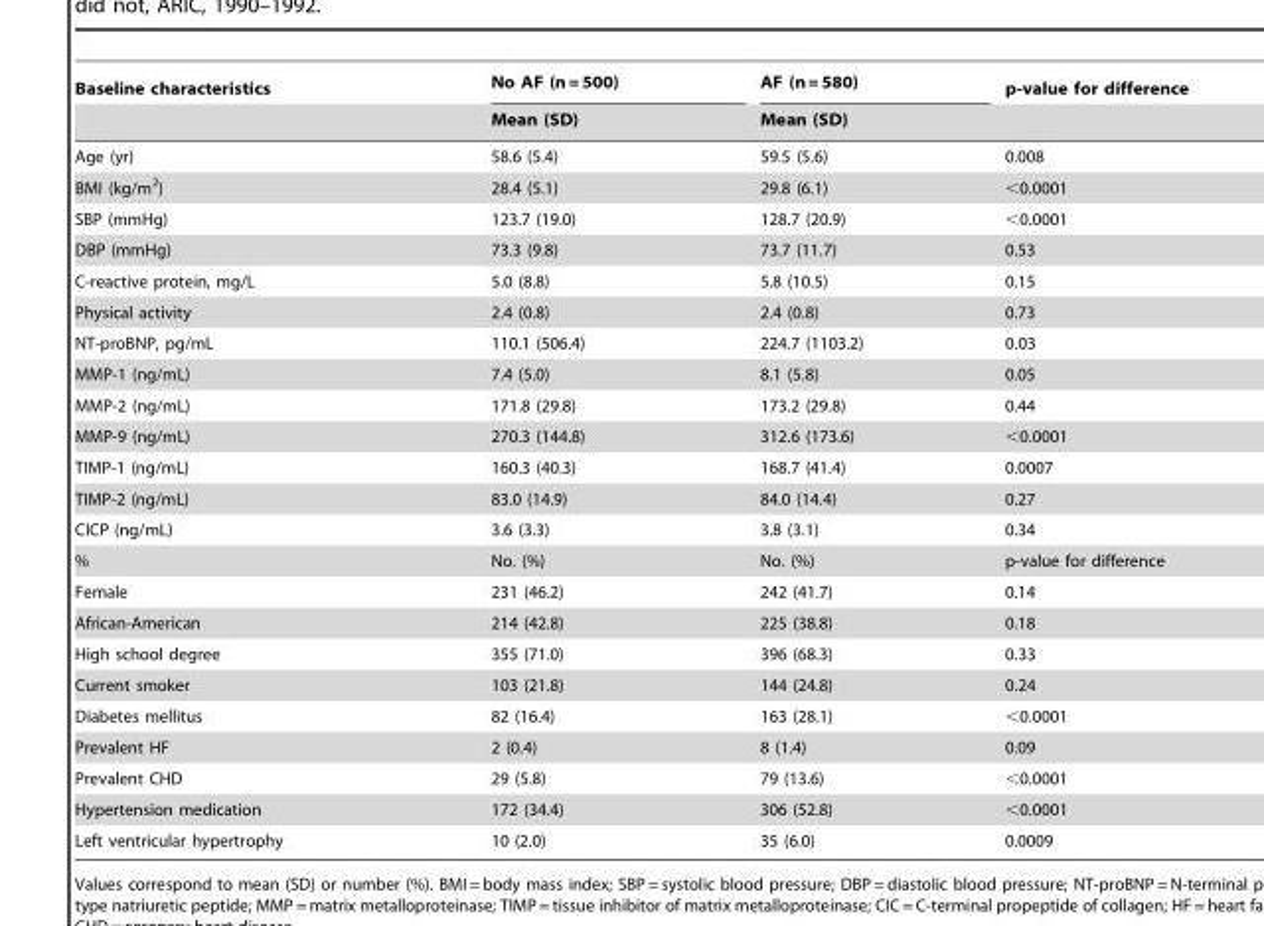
<table><thead><tr><td rowspan="2">Baseline characteristics</td><td rowspan="2">No AF (n = 500) Mean (SD)</td><td rowspan="2">AF (n = 580) Mean (SD)</td><td rowspan="2">p-value for difference</td></tr><tr></tr></thead><tbody><tr><td>Age (yr)</td><td>58.6 (5.4)</td><td>59.5 (5.6)</td><td>0.008</td></tr><tr><td>BMI (kg/m<sup>2</sup>)</td><td>28.4 (5.1)</td><td>29.8 (6.1)</td><td>&lt;0.0001</td></tr><tr><td>SBP (mmHg)</td><td>123.7 (19.0)</td><td>128.7 (20.9)</td><td>&lt;0.0001</td></tr><tr><td>DBP (mmHg)</td><td>73.3 (9.8)</td><td>73.7 (11.7)</td><td>0.53</td></tr><tr><td>C-reactive protein, mg/L</td><td>5.0 (8.8)</td><td>5.8 (10.5)</td><td>0.15</td></tr><tr><td>Physical activity</td><td>2.4 (0.8)</td><td>2.4 (0.8)</td><td>0.73</td></tr><tr><td>NT-proBNP, pg/mL</td><td>110.1 (506.4)</td><td>224.7 (1103.2)</td><td>0.03</td></tr><tr><td>MMP-1 (ng/mL)</td><td>7.4 (5.0)</td><td>8.1 (5.8)</td><td>0.05</td></tr><tr><td>MMP-2 (ng/mL)</td><td>171.8 (29.8)</td><td>173.2 (29.8)</td><td>0.44</td></tr><tr><td>MMP-9 (ng/mL)</td><td>270.3 (144.8)</td><td>312.6 (173.6)</td><td>&lt;0.0001</td></tr><tr><td>TIMP-1 (ng/mL)</td><td>160.3 (40.3)</td><td>168.7 (41.4)</td><td>0.0007</td></tr><tr><td>TIMP-2 (ng/mL)</td><td>83.0 (14.9)</td><td>84.0 (14.4)</td><td>0.27</td></tr><tr><td>CICP (ng/mL)</td><td>3.6 (3.3)</td><td>3.8 (3.1)</td><td>0.34</td></tr><tr><td>%</td><td>No. (%)</td><td>No. (%)</td><td>p-value for difference</td></tr><tr><td>Female</td><td>231 (46.2)</td><td>242 (41.7)</td><td>0.14</td></tr><tr><td>African-American</td><td>214 (42.8)</td><td>225 (38.8)</td><td>0.18</td></tr><tr><td>High school degree</td><td>355 (71.0)</td><td>396 (68.3)</td><td>0.33</td></tr><tr><td>Current smoker</td><td>103 (21.8)</td><td>144 (24.8)</td><td>0.24</td></tr><tr><td>Diabetes mellitus</td><td>82 (16.4)</td><td>163 (28.1)</td><td>&lt;0.0001</td></tr><tr><td>Prevalent HF</td><td>2 (0.4)</td><td>8 (1.4)</td><td>0.09</td></tr><tr><td>Prevalent CHD</td><td>29 (5.8)</td><td>79 (13.6)</td><td>&lt;0.0001</td></tr><tr><td>Hypertension medication</td><td>172 (34.4)</td><td>306 (52.8)</td><td>&lt;0.0001</td></tr><tr><td>Left ventricular hypertrophy</td><td>10 (2.0)</td><td>35 (6.0)</td><td>0.0009</td></tr></tbody></table>